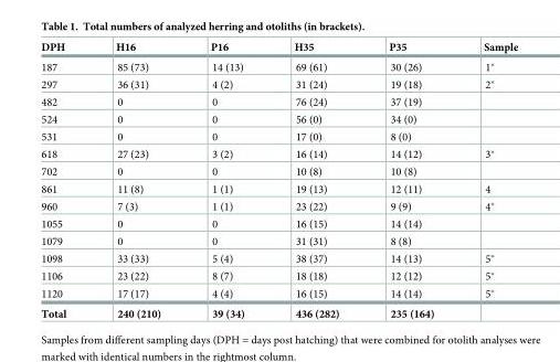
<table><thead><tr><td>DPH</td><td>H16</td><td>P16</td><td>H35</td><td>P35</td><td>Sample</td></tr></thead><tbody><tr><td>187</td><td>85 (73)</td><td>14 (13)</td><td>69 (61)</td><td>30 (26)</td><td>1*</td></tr><tr><td>297</td><td>36 (31)</td><td>4 (2)</td><td>31 (24)</td><td>19 (18)</td><td>2*</td></tr><tr><td>482</td><td>0</td><td>0</td><td>76 (24)</td><td>37 (19)</td><td></td></tr><tr><td>524</td><td>0</td><td>0</td><td>56 (0)</td><td>34 (0)</td><td></td></tr><tr><td>531</td><td>0</td><td>0</td><td>17 (0)</td><td>8 (0)</td><td></td></tr><tr><td>618</td><td>27 (23)</td><td>3 (2)</td><td>16 (14)</td><td>14 (12)</td><td>3*</td></tr><tr><td>702</td><td>0</td><td>0</td><td>10 (8)</td><td>10 (8)</td><td></td></tr><tr><td>861</td><td>11 (8)</td><td>1 (1)</td><td>19 (13)</td><td>12 (11)</td><td>4</td></tr><tr><td>960</td><td>7 (3)</td><td>1 (1)</td><td>23 (22)</td><td>9 (9)</td><td>4*</td></tr><tr><td>1055</td><td>0</td><td>0</td><td>16 (15)</td><td>14 (14)</td><td></td></tr><tr><td>1079</td><td>0</td><td>0</td><td>31 (31)</td><td>8 (8)</td><td></td></tr><tr><td>1098</td><td>33 (33)</td><td>5 (4)</td><td>38 (37)</td><td>14 (13)</td><td>5*</td></tr><tr><td>1106</td><td>23 (22)</td><td>8 (7)</td><td>18 (18)</td><td>12 (12)</td><td>5*</td></tr><tr><td>1120</td><td>17 (17)</td><td>4 (4)</td><td>16 (15)</td><td>14 (14)</td><td>5*</td></tr><tr><td>Total</td><td>240 (210)</td><td>39 (34)</td><td>436 (282)</td><td>235 (164)</td><td></td></tr></tbody></table>